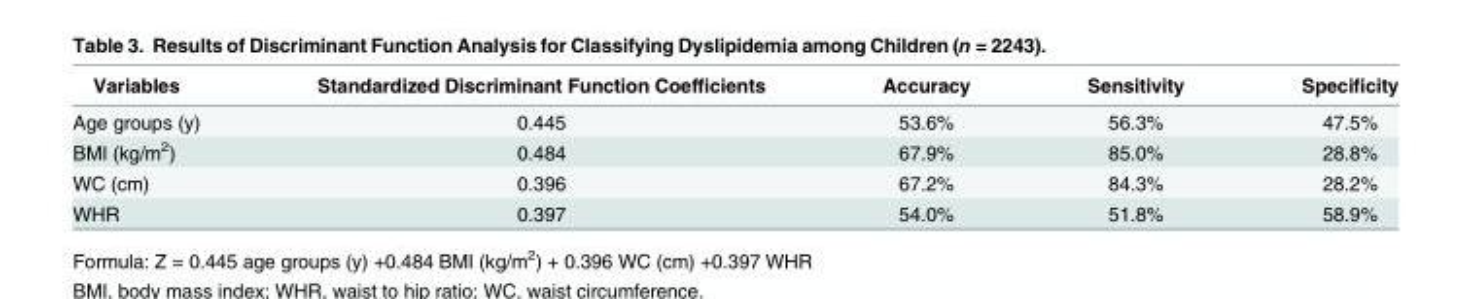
<table><thead><tr><td>Variables</td><td>Standardized Discriminant Function Coefficients</td><td>Accuracy</td><td>Sensitivity</td><td>Specificity</td></tr></thead><tbody><tr><td>Age groups (y)</td><td>0.445</td><td>53.6%</td><td>56.3%</td><td>47.5%</td></tr><tr><td>BMI (kg/m<sup>2</sup>)</td><td>0.484</td><td>67.9%</td><td>85.0%</td><td>28.8%</td></tr><tr><td>WC (cm)</td><td>0.396</td><td>67.2%</td><td>84.3%</td><td>28.2%</td></tr><tr><td>WHR</td><td>0.397</td><td>54.0%</td><td>51.8%</td><td>58.9%</td></tr></tbody></table>